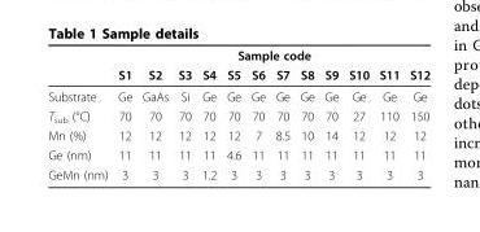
<table><thead><tr><td rowspan="2"></td><td colspan="12">Sample code</td></tr><tr><td>S1</td><td>S2</td><td>S3</td><td>S4</td><td>S5</td><td>S6</td><td>S7</td><td>S8</td><td>S9</td><td>S10</td><td>S11</td><td>S12</td></tr></thead><tbody><tr><td>Substrate</td><td>Ge</td><td>GaAs</td><td>Si</td><td>Ge</td><td>Ge</td><td>Ge</td><td>Ge</td><td>Ge</td><td>Ge</td><td>Ge</td><td>Ge</td><td>Ge</td></tr><tr><td>T<sub>sub</sub> (°C)</td><td>70</td><td>70</td><td>70</td><td>70</td><td>70</td><td>70</td><td>70</td><td>70</td><td>70</td><td>27</td><td>110</td><td>150</td></tr><tr><td>Mn (%)</td><td>12</td><td>12</td><td>12</td><td>12</td><td>12</td><td>7</td><td>8.5</td><td>10</td><td>14</td><td>12</td><td>12</td><td>12</td></tr><tr><td>Ge (nm)</td><td>11</td><td>11</td><td>11</td><td>11</td><td>4.6</td><td>11</td><td>11</td><td>11</td><td>11</td><td>11</td><td>11</td><td>11</td></tr><tr><td>GeMn (nm)</td><td>3</td><td>3</td><td>3</td><td>1.2</td><td>3</td><td>3</td><td>3</td><td>3</td><td>3</td><td>3</td><td>3</td><td>3</td></tr></tbody></table>